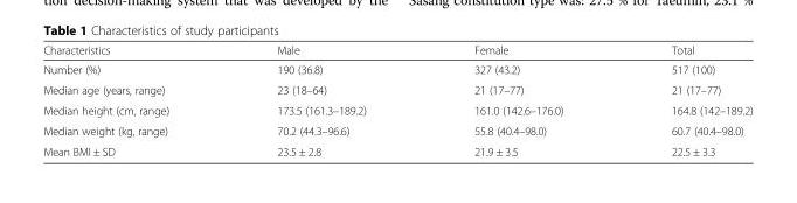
<table><thead><tr><td>Characteristics</td><td>Male</td><td>Female</td><td>Total</td></tr></thead><tbody><tr><td>Number (%)</td><td>190 (36.8)</td><td>327 (43.2)</td><td>517 (100)</td></tr><tr><td>Median age (years, range)</td><td>23 (18–64)</td><td>21 (17–77)</td><td>21 (17–77)</td></tr><tr><td>Median height (cm, range)</td><td>173.5 (161.3–189.2)</td><td>161.0 (142.6–176.0)</td><td>164.8 (142–189.2)</td></tr><tr><td>Median weight (kg, range)</td><td>70.2 (44.3–96.6)</td><td>55.8 (40.4–98.0)</td><td>60.7 (40.4–98.0)</td></tr><tr><td>Mean BMI ± SD</td><td>23.5 ± 2.8</td><td>21.9 ± 3.5</td><td>22.5 ± 3.3</td></tr></tbody></table>